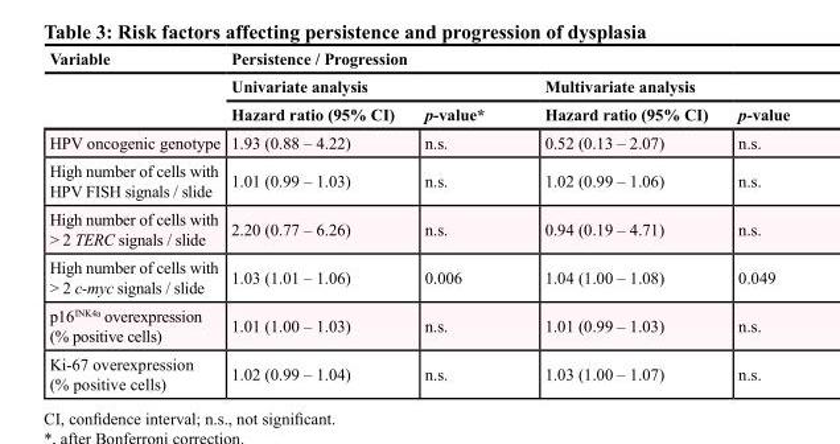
<table><thead><tr><td rowspan="3">Variable</td><td colspan="4">Persistence / Progression</td></tr><tr><td colspan="2">Univariate analysis</td><td colspan="2">Multivariate analysis</td></tr><tr><td>Hazard ratio (95% CI)</td><td>p-value*</td><td>Hazard ratio (95% CI)</td><td>p-value</td></tr></thead><tbody><tr><td>HPV oncogenic genotype</td><td>1.93 (0.88 – 4.22)</td><td>n.s.</td><td>0.52 (0.13 – 2.07)</td><td>n.s.</td></tr><tr><td>High number of cells with HPV FISH signals / slide</td><td>1.01 (0.99 – 1.03)</td><td>n.s.</td><td>1.02 (0.99 – 1.06)</td><td>n.s.</td></tr><tr><td>High number of cells with &gt; 2 TERC signals / slide</td><td>2.20 (0.77 – 6.26)</td><td>n.s.</td><td>0.94 (0.19 – 4.71)</td><td>n.s.</td></tr><tr><td>High number of cells with &gt; 2 c-myc signals / slide</td><td>1.03 (1.01 – 1.06)</td><td>0.006</td><td>1.04 (1.00 – 1.08)</td><td>0.049</td></tr><tr><td>p16<sup>INK4a</sup> overexpression (% positive cells)</td><td>1.01 (1.00 – 1.03)</td><td>n.s.</td><td>1.01 (0.99 – 1.03)</td><td>n.s.</td></tr><tr><td>Ki-67 overexpression (% positive cells)</td><td>1.02 (0.99 – 1.04)</td><td>n.s.</td><td>1.03 (1.00 – 1.07)</td><td>n.s.</td></tr></tbody></table>